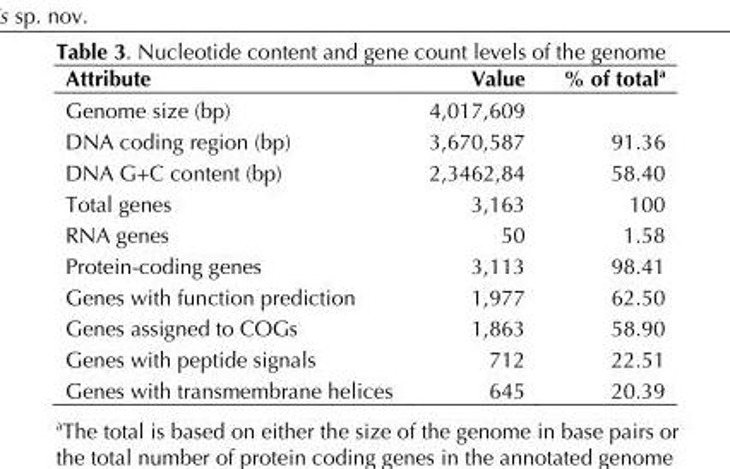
<table><thead><tr><td>Attribute</td><td>Value</td><td>% of total<sup>a</sup></td></tr></thead><tbody><tr><td>Genome size (bp)</td><td>4,017,609</td><td></td></tr><tr><td>DNA coding region (bp)</td><td>3,670,587</td><td>91.36</td></tr><tr><td>DNA G+C content (bp)</td><td>2,3462,84</td><td>58.40</td></tr><tr><td>Total genes</td><td>3,163</td><td>100</td></tr><tr><td>RNA genes</td><td>50</td><td>1.58</td></tr><tr><td>Protein-coding genes</td><td>3,113</td><td>98.41</td></tr><tr><td>Genes with function prediction</td><td>1,977</td><td>62.50</td></tr><tr><td>Genes assigned to COGs</td><td>1,863</td><td>58.90</td></tr><tr><td>Genes with peptide signals</td><td>712</td><td>22.51</td></tr><tr><td>Genes with transmembrane helices</td><td>645</td><td>20.39</td></tr></tbody></table>